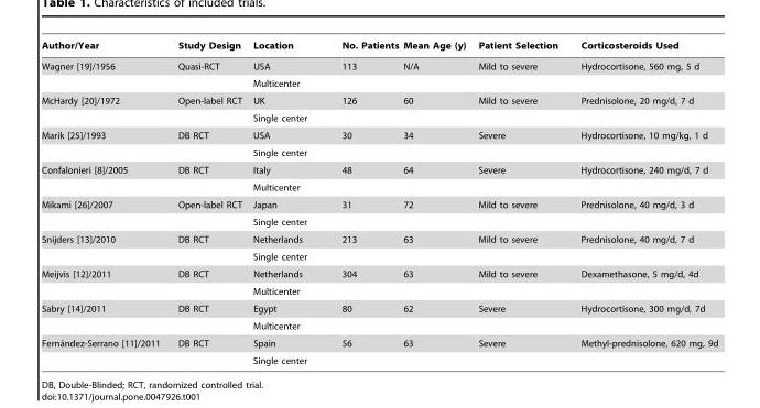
<table><thead><tr><td>Author/Year</td><td>Study Design</td><td>Location</td><td>No. Patients</td><td>Mean Age (y)</td><td>Patient Selection</td><td>Corticosteroids Used</td></tr></thead><tbody><tr><td rowspan="2">Wagner [19]/1956</td><td>Quasi-RCT</td><td>USA</td><td>113</td><td>N/A</td><td>Mild to severe</td><td>Hydrocortisone, 560 mg, 5 d</td></tr><tr><td></td><td>Multicenter</td><td></td><td></td><td></td><td></td></tr><tr><td rowspan="2">McHardy [20]/1972</td><td>Open-label RCT</td><td>UK</td><td>126</td><td>60</td><td>Mild to severe</td><td>Prednisolone, 20 mg/d, 7 d</td></tr><tr><td></td><td>Single center</td><td></td><td></td><td></td><td></td></tr><tr><td rowspan="2">Marik [25]/1993</td><td>DB RCT</td><td>USA</td><td>30</td><td>34</td><td>Severe</td><td>Hydrocortisone, 10 mg/kg, 1 d</td></tr><tr><td></td><td>Single center</td><td></td><td></td><td></td><td></td></tr><tr><td rowspan="2">Confalonieri [8]/2005</td><td>DB RCT</td><td>Italy</td><td>48</td><td>64</td><td>Severe</td><td>Hydrocortisone, 240 mg/d, 7 d</td></tr><tr><td></td><td>Multicenter</td><td></td><td></td><td></td><td></td></tr><tr><td rowspan="2">Mikami [26]/2007</td><td>Open-label RCT</td><td>Japan</td><td>31</td><td>72</td><td>Mild to severe</td><td>Prednisolone, 40 mg/d, 3 d</td></tr><tr><td></td><td>Single center</td><td></td><td></td><td></td><td></td></tr><tr><td rowspan="2">Snijders [13]/2010</td><td>DB RCT</td><td>Netherlands</td><td>213</td><td>63</td><td>Mild to severe</td><td>Prednisolone, 40 mg/d, 7 d</td></tr><tr><td></td><td>Single center</td><td></td><td></td><td></td><td></td></tr><tr><td rowspan="2">Meijvis [12]/2011</td><td>DB RCT</td><td>Netherlands</td><td>304</td><td>63</td><td>Mild to severe</td><td>Dexamethasone, 5 mg/d, 4d</td></tr><tr><td></td><td>Multicenter</td><td></td><td></td><td></td><td></td></tr><tr><td rowspan="2">Sabry [14]/2011</td><td>DB RCT</td><td>Egypt</td><td>80</td><td>62</td><td>Severe</td><td>Hydrocortisone, 300 mg/d, 7d</td></tr><tr><td></td><td>Multicenter</td><td></td><td></td><td></td><td></td></tr><tr><td rowspan="2">Ferna´ndez-Serrano [11]/2011</td><td>DB RCT</td><td>Spain</td><td>56</td><td>63</td><td>Severe</td><td>Methyl-prednisolone, 620 mg, 9d</td></tr><tr><td></td><td>Single center</td><td></td><td></td><td></td><td></td></tr></tbody></table>